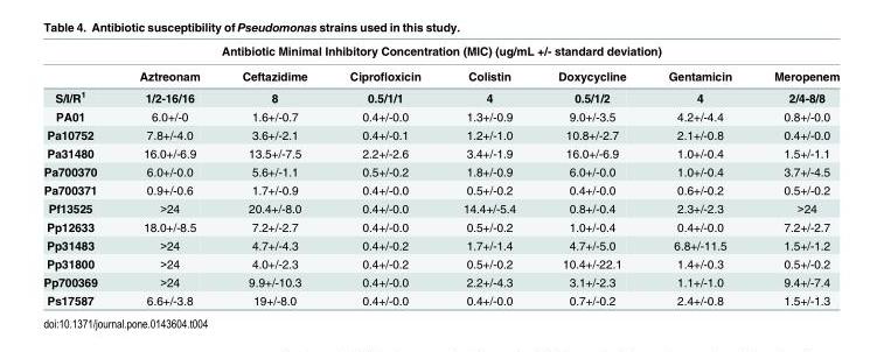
<table><thead><tr><td colspan="8">Antibiotic Minimal Inhibitory Concentration (MIC) (ug/mL +/- standard deviation)</td></tr><tr><td></td><td>Aztreonam</td><td>Ceftazidime</td><td>Ciprofloxicin</td><td>Colistin</td><td>Doxycycline</td><td>Gentamicin</td><td>Meropenem</td></tr></thead><tbody><tr><td>S/I/R<sup>1</sup></td><td>1/2-16/16</td><td>8</td><td>0.5/1/1</td><td>4</td><td>0.5/1/2</td><td>4</td><td>2/4-8/8</td></tr><tr><td>PA01</td><td>6.0+/-0</td><td>1.6+/-0.7</td><td>0.4+/-0.0</td><td>1.3+/-0.9</td><td>9.0+/-3.5</td><td>4.2+/-4.4</td><td>0.8+/-0.0</td></tr><tr><td>Pa10752</td><td>7.8+/-4.0</td><td>3.6+/-2.1</td><td>0.4+/-0.1</td><td>1.2+/-1.0</td><td>10.8+/-2.7</td><td>2.1+/-0.8</td><td>0.4+/-0.0</td></tr><tr><td>Pa31480</td><td>16.0+/-6.9</td><td>13.5+/-7.5</td><td>2.2+/-2.6</td><td>3.4+/-1.9</td><td>16.0+/-6.9</td><td>1.0+/-0.4</td><td>1.5+/-1.1</td></tr><tr><td>Pa700370</td><td>6.0+/-0.0</td><td>5.6+/-1.1</td><td>0.5+/-0.2</td><td>1.8+/-0.9</td><td>6.0+/-0.0</td><td>1.0+/-0.4</td><td>3.7+/-4.5</td></tr><tr><td>Pa700371</td><td>0.9+/-0.6</td><td>1.7+/-0.9</td><td>0.4+/-0.0</td><td>0.5+/-0.2</td><td>0.4+/-0.0</td><td>0.6+/-0.2</td><td>0.5+/-0.2</td></tr><tr><td>Pf13525</td><td>&gt;24</td><td>20.4+/-8.0</td><td>0.4+/-0.0</td><td>14.4+/-5.4</td><td>0.8+/-0.4</td><td>2.3+/-2.3</td><td>&gt;24</td></tr><tr><td>Pp12633</td><td>18.0+/-8.5</td><td>7.2+/-2.7</td><td>0.4+/-0.0</td><td>0.5+/-0.2</td><td>1.0+/-0.4</td><td>0.4+/-0.0</td><td>7.2+/-2.7</td></tr><tr><td>Pp31483</td><td>&gt;24</td><td>4.7+/-4.3</td><td>0.4+/-0.2</td><td>1.7+/-1.4</td><td>4.7+/-5.0</td><td>6.8+/-11.5</td><td>1.5+/-1.2</td></tr><tr><td>Pp31800</td><td>&gt;24</td><td>4.0+/-2.3</td><td>0.4+/-0.2</td><td>0.5+/-0.2</td><td>10.4+/-22.1</td><td>1.4+/-0.3</td><td>0.5+/-0.2</td></tr><tr><td>Pp700369</td><td>&gt;24</td><td>9.9+/-10.3</td><td>0.4+/-0.0</td><td>2.2+/-4.3</td><td>3.1+/-2.3</td><td>1.1+/-1.0</td><td>9.4+/-7.4</td></tr><tr><td>Ps17587</td><td>6.6+/-3.8</td><td>19+/-8.0</td><td>0.4+/-0.0</td><td>0.4+/-0.0</td><td>0.7+/-0.2</td><td>2.4+/-0.8</td><td>1.5+/-1.3</td></tr></tbody></table>